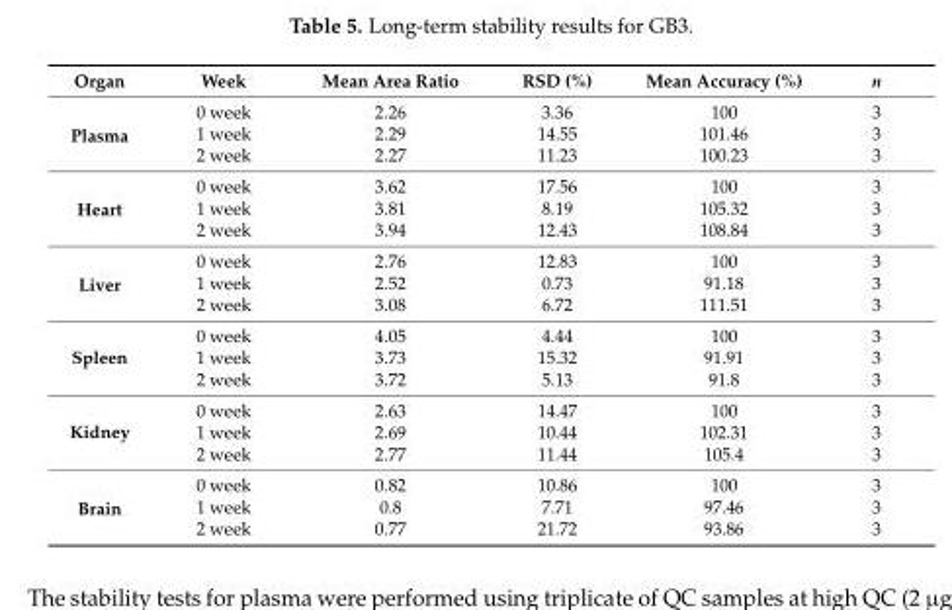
<table><thead><tr><td>Organ</td><td>Week</td><td>Mean Area Ratio</td><td>RSD (%)</td><td>Mean Accuracy (%)</td><td>n</td></tr></thead><tbody><tr><td rowspan="3">Plasma</td><td>0 week</td><td>2.26</td><td>3.36</td><td>100</td><td>3</td></tr><tr><td>1 week</td><td>2.29</td><td>14.55</td><td>101.46</td><td>3</td></tr><tr><td>2 week</td><td>2.27</td><td>11.23</td><td>100.23</td><td>3</td></tr><tr><td rowspan="3">Heart</td><td>0 week</td><td>3.62</td><td>17.56</td><td>100</td><td>3</td></tr><tr><td>1 week</td><td>3.81</td><td>8.19</td><td>105.32</td><td>3</td></tr><tr><td>2 week</td><td>3.94</td><td>12.43</td><td>108.84</td><td>3</td></tr><tr><td rowspan="3">Liver</td><td>0 week</td><td>2.76</td><td>12.83</td><td>100</td><td>3</td></tr><tr><td>1 week</td><td>2.52</td><td>0.73</td><td>91.18</td><td>3</td></tr><tr><td>2 week</td><td>3.08</td><td>6.72</td><td>111.51</td><td>3</td></tr><tr><td rowspan="3">Spleen</td><td>0 week</td><td>4.05</td><td>4.44</td><td>100</td><td>3</td></tr><tr><td>1 week</td><td>3.73</td><td>15.32</td><td>91.91</td><td>3</td></tr><tr><td>2 week</td><td>3.72</td><td>5.13</td><td>91.8</td><td>3</td></tr><tr><td rowspan="3">Kidney</td><td>0 week</td><td>2.63</td><td>14.47</td><td>100</td><td>3</td></tr><tr><td>1 week</td><td>2.69</td><td>10.44</td><td>102.31</td><td>3</td></tr><tr><td>2 week</td><td>2.77</td><td>11.44</td><td>105.4</td><td>3</td></tr><tr><td rowspan="3">Brain</td><td>0 week</td><td>0.82</td><td>10.86</td><td>100</td><td>3</td></tr><tr><td>1 week</td><td>0.8</td><td>7.71</td><td>97.46</td><td>3</td></tr><tr><td>2 week</td><td>0.77</td><td>21.72</td><td>93.86</td><td>3</td></tr></tbody></table>